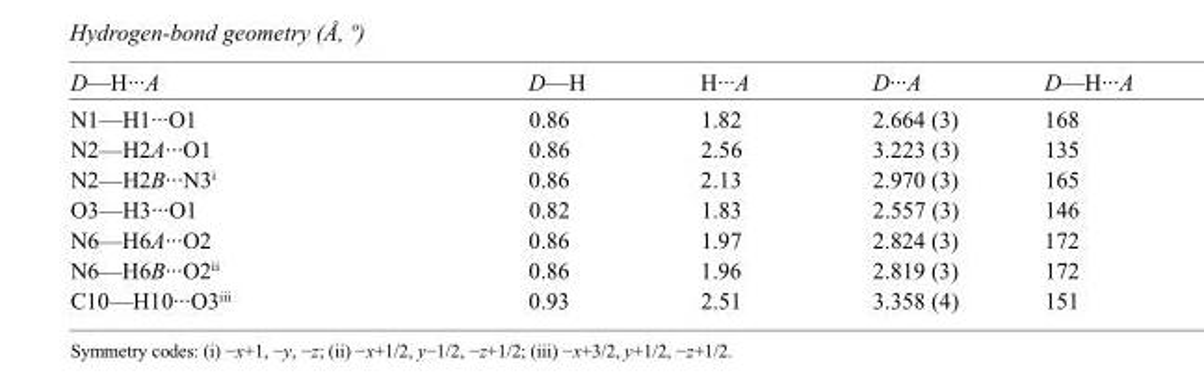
<table><tbody><tr><td>D—H···A</td><td>D—H</td><td>H···A</td><td>D···A</td><td>D—H···A</td></tr><tr><td>N1—H1···O1</td><td>0.86</td><td>1.82</td><td>2.664 (3)</td><td>168</td></tr><tr><td>N2—H2A···O1</td><td>0.86</td><td>2.56</td><td>3.223 (3)</td><td>135</td></tr><tr><td>N2—H2B···N3<sup>i</sup></td><td>0.86</td><td>2.13</td><td>2.970 (3)</td><td>165</td></tr><tr><td>O3—H3···O1</td><td>0.82</td><td>1.83</td><td>2.557 (3)</td><td>146</td></tr><tr><td>N6—H6A···O2</td><td>0.86</td><td>1.97</td><td>2.824 (3)</td><td>172</td></tr><tr><td>N6—H6B···O2<sup>ii</sup></td><td>0.86</td><td>1.96</td><td>2.819 (3)</td><td>172</td></tr><tr><td>C10—H10···O3<sup>iii</sup></td><td>0.93</td><td>2.51</td><td>3.358 (4)</td><td>151</td></tr></tbody></table>